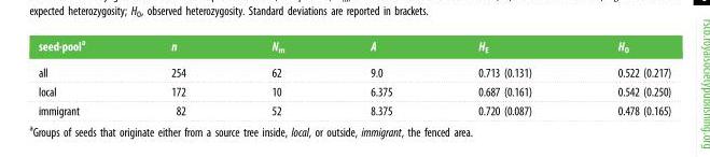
<table><thead><tr><td>seed-pool<sup>a</sup></td><td>n</td><td>N<sub>m</sub></td><td>A</td><td>H<sub>E</sub></td><td>H<sub>O</sub></td></tr></thead><tbody><tr><td>all</td><td>254</td><td>62</td><td>9.0</td><td>0.713 (0.131)</td><td>0.522 (0.217)</td></tr><tr><td>local</td><td>172</td><td>10</td><td>6.375</td><td>0.687 (0.161)</td><td>0.542 (0.250)</td></tr><tr><td>immigrant</td><td>82</td><td>52</td><td>8.375</td><td>0.720 (0.087)</td><td>0.478 (0.165)</td></tr></tbody></table>